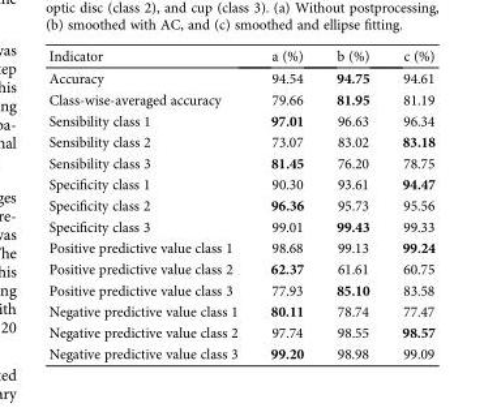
<table><thead><tr><td>Indicator</td><td>a (%)</td><td>b (%)</td><td>c (%)</td></tr></thead><tbody><tr><td>Accuracy</td><td>94.54</td><td>94.75</td><td>94.61</td></tr><tr><td>Class-wise-averaged accuracy</td><td>79.66</td><td>81.95</td><td>81.19</td></tr><tr><td>Sensibility class 1</td><td>97.01</td><td>96.63</td><td>96.34</td></tr><tr><td>Sensibility class 2</td><td>73.07</td><td>83.02</td><td>83.18</td></tr><tr><td>Sensibility class 3</td><td>81.45</td><td>76.20</td><td>78.75</td></tr><tr><td>Specificity class 1</td><td>90.30</td><td>93.61</td><td>94.47</td></tr><tr><td>Specificity class 2</td><td>96.36</td><td>95.73</td><td>95.56</td></tr><tr><td>Specificity class 3</td><td>99.01</td><td>99.43</td><td>99.33</td></tr><tr><td>Positive predictive value class 1</td><td>98.68</td><td>99.13</td><td>99.24</td></tr><tr><td>Positive predictive value class 2</td><td>62.37</td><td>61.61</td><td>60.75</td></tr><tr><td>Positive predictive value class 3</td><td>77.93</td><td>85.10</td><td>83.58</td></tr><tr><td>Negative predictive value class 1</td><td>80.11</td><td>78.74</td><td>77.47</td></tr><tr><td>Negative predictive value class 2</td><td>97.74</td><td>98.55</td><td>98.57</td></tr><tr><td>Negative predictive value class 3</td><td>99.20</td><td>98.98</td><td>99.09</td></tr></tbody></table>